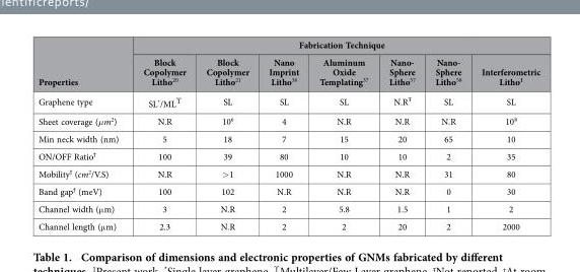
<table><thead><tr><td rowspan="2">Properties</td><td colspan="7">Fabrication Technique</td></tr><tr><td>Block Copolymer Litho20</td><td>Block Copolymer Litho21</td><td>Nano Imprint Litho36</td><td>Aluminum Oxide Templating37</td><td>Nano- Sphere Litho57</td><td>Nano- Sphere Litho58</td><td>Interferometric Litho1</td></tr></thead><tbody><tr><td>Graphene type</td><td>SL*/MLϒ</td><td>SL</td><td>SL</td><td>SL</td><td>N.RŦ</td><td>SL</td><td>SL</td></tr><tr><td>Sheet coverage (μm2)</td><td>N.R</td><td>106</td><td>4</td><td>N.R</td><td>N.R</td><td>N.R</td><td>108</td></tr><tr><td>Min neck width (nm)</td><td>5</td><td>18</td><td>7</td><td>15</td><td>20</td><td>65</td><td>10</td></tr><tr><td>ON/OFF Ratioϯ</td><td>100</td><td>39</td><td>80</td><td>10</td><td>10</td><td>2</td><td>35</td></tr><tr><td>Mobilityϯ (cm2/V.S)</td><td>N.R</td><td>&gt; 1</td><td>1000</td><td>N.R</td><td>N.R</td><td>31</td><td>80</td></tr><tr><td>Band gapϯ (meV)</td><td>100</td><td>102</td><td>N.R</td><td>N.R</td><td>N.R</td><td>0</td><td>30</td></tr><tr><td>Channel width (μ m)</td><td>3</td><td>N.R</td><td>2</td><td>5.8</td><td>1.5</td><td>1</td><td>2</td></tr><tr><td>Channel length (μ m)</td><td>2.3</td><td>N.R</td><td>2</td><td>2</td><td>20</td><td>2</td><td>2000</td></tr></tbody></table>